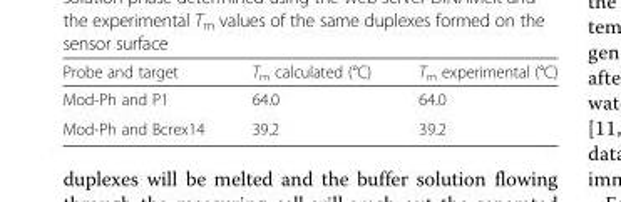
<table><thead><tr><td>Probe and target</td><td>T<sub>m</sub> calculated (°C)</td><td>T<sub>m</sub> experimental (°C)</td></tr></thead><tbody><tr><td>Mod-Ph and P1</td><td>64.0</td><td>64.0</td></tr><tr><td>Mod-Ph and Bcrex14</td><td>39.2</td><td>39.2</td></tr></tbody></table>